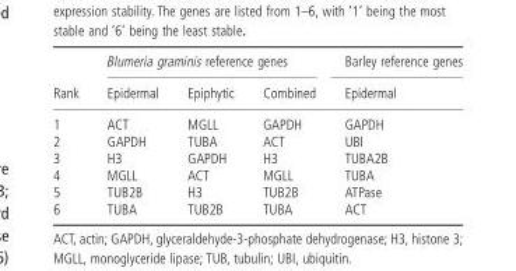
<table><thead><tr><td rowspan="2">Rank</td><td colspan="3">Blumeria graminis reference genes</td><td rowspan="2">Barley reference genes Epidermal</td></tr><tr><td>Epidermal</td><td>Epiphytic</td><td>Combined</td></tr></thead><tbody><tr><td>1</td><td>ACT</td><td>MGLL</td><td>GAPDH</td><td>GAPDH</td></tr><tr><td>2</td><td>GAPDH</td><td>TUBA</td><td>ACT</td><td>UBI</td></tr><tr><td>3</td><td>H3</td><td>GAPDH</td><td>H3</td><td>TUBA2B</td></tr><tr><td>4</td><td>MGLL</td><td>ACT</td><td>MGLL</td><td>TUBA</td></tr><tr><td>5</td><td>TUB2B</td><td>H3</td><td>TUB2B</td><td>ATPase</td></tr><tr><td>6</td><td>TUBA</td><td>TUB2B</td><td>TUBA</td><td>ACT</td></tr></tbody></table>